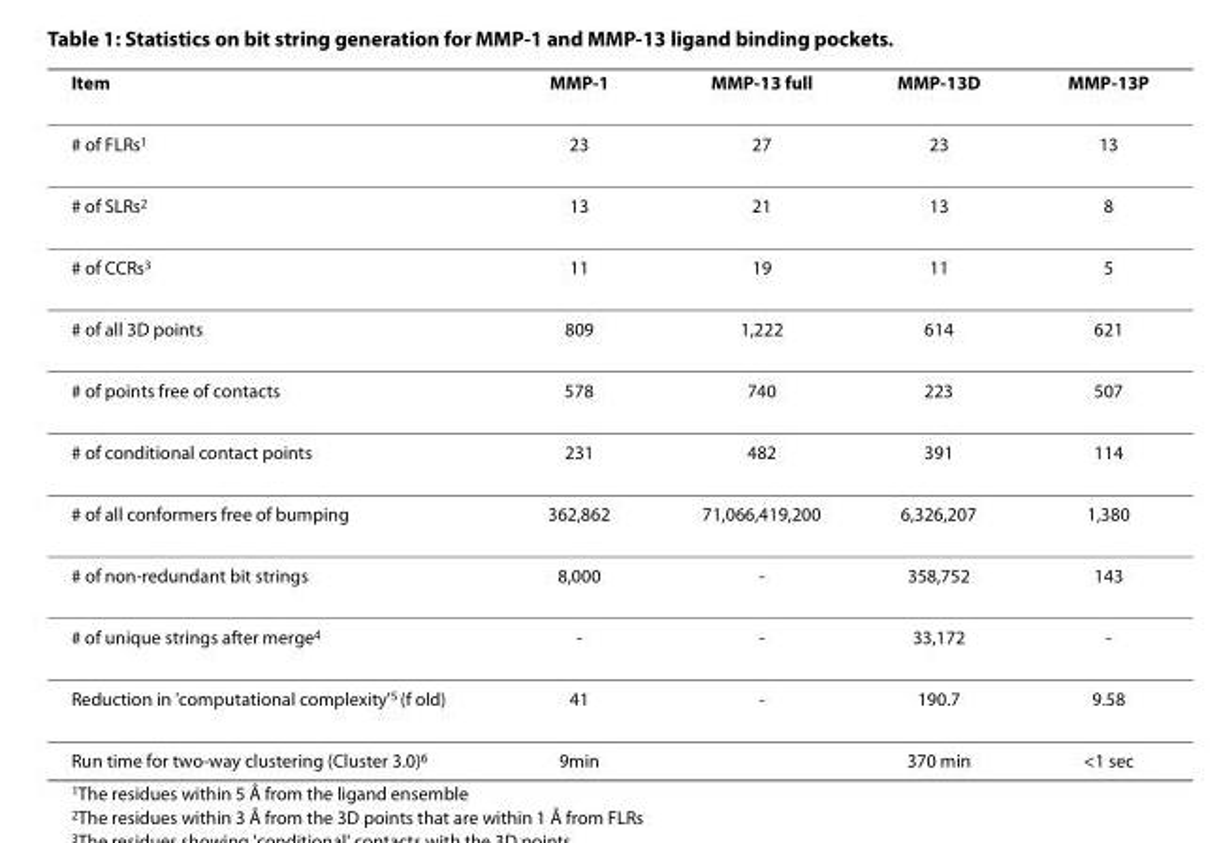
<table><thead><tr><td>Item</td><td>MMP-1</td><td>MMP-13 full</td><td>MMP-13D</td><td>MMP-13P</td></tr></thead><tbody><tr><td># of FLRs<sup>1</sup></td><td>23</td><td>27</td><td>23</td><td>13</td></tr><tr><td># of SLRs<sup>2</sup></td><td>13</td><td>21</td><td>13</td><td>8</td></tr><tr><td># of CCRs<sup>3</sup></td><td>11</td><td>19</td><td>11</td><td>5</td></tr><tr><td># of all 3D points</td><td>809</td><td>1,222</td><td>614</td><td>621</td></tr><tr><td># of points free of contacts</td><td>578</td><td>740</td><td>223</td><td>507</td></tr><tr><td># of conditional contact points</td><td>231</td><td>482</td><td>391</td><td>114</td></tr><tr><td># of all conformers free of bumping</td><td>362,862</td><td>71,066,419,200</td><td>6,326,207</td><td>1,380</td></tr><tr><td># of non-redundant bit strings</td><td>8,000</td><td>-</td><td>358,752</td><td>143</td></tr><tr><td># of unique strings after merge<sup>4</sup></td><td>-</td><td>-</td><td>33,172</td><td>-</td></tr><tr><td>Reduction in &#x27;computational complexity&#x27;<sup>5</sup> (f old)</td><td>41</td><td>-</td><td>190.7</td><td>9.58</td></tr><tr><td>Run time for two-way clustering (Cluster 3.0)<sup>6</sup></td><td>9min</td><td></td><td>370 min</td><td>&lt;1 sec</td></tr></tbody></table>